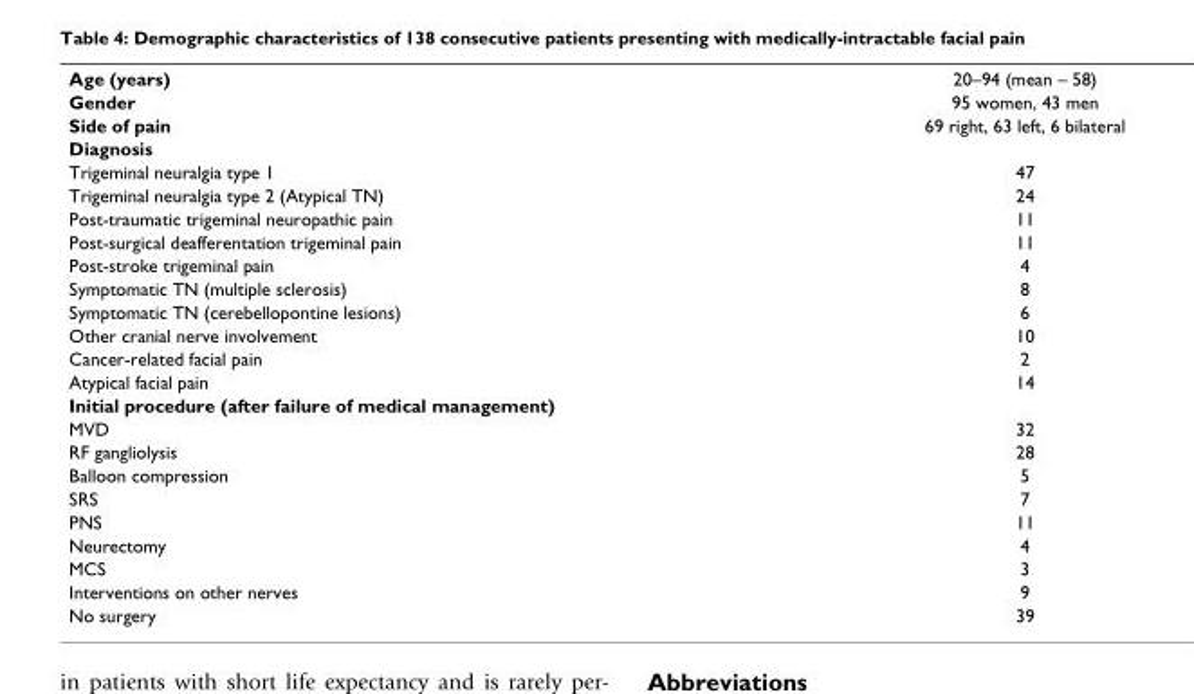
<table><tbody><tr><td>Age (years)</td><td>20–94 (mean – 58)</td></tr><tr><td>Gender</td><td>95 women, 43 men</td></tr><tr><td>Side of pain</td><td>69 right, 63 left, 6 bilateral</td></tr><tr><td colspan="2">Diagnosis</td></tr><tr><td>Trigeminal neuralgia type 1</td><td>47</td></tr><tr><td>Trigeminal neuralgia type 2 (Atypical TN)</td><td>24</td></tr><tr><td>Post-traumatic trigeminal neuropathic pain</td><td>11</td></tr><tr><td>Post-surgical deafferentation trigeminal pain</td><td>11</td></tr><tr><td>Post-stroke trigeminal pain</td><td>4</td></tr><tr><td>Symptomatic TN (multiple sclerosis)</td><td>8</td></tr><tr><td>Symptomatic TN (cerebellopontine lesions)</td><td>6</td></tr><tr><td>Other cranial nerve involvement</td><td>10</td></tr><tr><td>Cancer-related facial pain</td><td>2</td></tr><tr><td>Atypical facial pain</td><td>14</td></tr><tr><td colspan="2">Initial procedure (after failure of medical management)</td></tr><tr><td>MVD</td><td>32</td></tr><tr><td>RF gangliolysis</td><td>28</td></tr><tr><td>Balloon compression</td><td>5</td></tr><tr><td>SRS</td><td>7</td></tr><tr><td>PNS</td><td>11</td></tr><tr><td>Neurectomy</td><td>4</td></tr><tr><td>MCS</td><td>3</td></tr><tr><td>Interventions on other nerves</td><td>9</td></tr><tr><td>No surgery</td><td>39</td></tr></tbody></table>